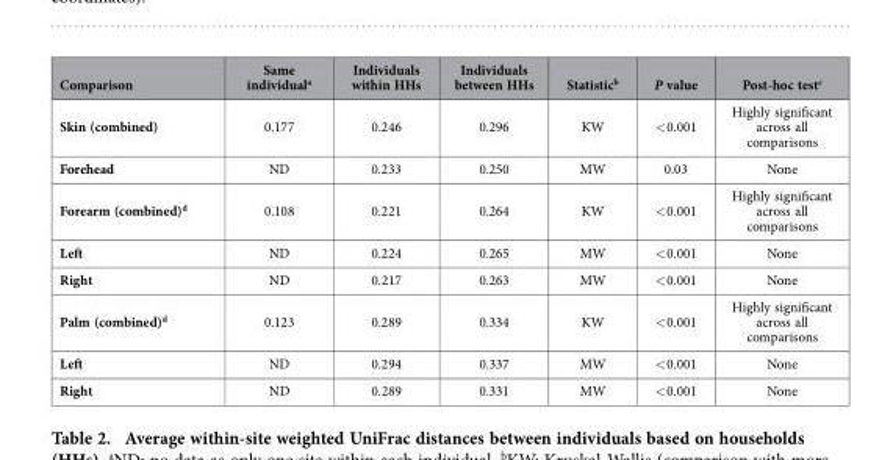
<table><thead><tr><td>Comparison</td><td>Same individual<sup>a</sup></td><td>Individuals within HHs</td><td>Individuals between HHs</td><td>Statistic<sup>b</sup></td><td>P value</td><td>Post-hoc test<sup>c</sup></td></tr></thead><tbody><tr><td>Skin (combined)</td><td>0.177</td><td>0.246</td><td>0.296</td><td>KW</td><td>&lt; 0.001</td><td>Highly significant across all comparisons</td></tr><tr><td>Forehead</td><td>ND</td><td>0.233</td><td>0.250</td><td>MW</td><td>0.03</td><td>None</td></tr><tr><td>Forearm (combined)<sup>d</sup></td><td>0.108</td><td>0.221</td><td>0.264</td><td>KW</td><td>&lt; 0.001</td><td>Highly significant across all comparisons</td></tr><tr><td>Left</td><td>ND</td><td>0.224</td><td>0.265</td><td>MW</td><td>&lt; 0.001</td><td>None</td></tr><tr><td>Right</td><td>ND</td><td>0.217</td><td>0.263</td><td>MW</td><td>&lt; 0.001</td><td>None</td></tr><tr><td>Palm (combined)<sup>d</sup></td><td>0.123</td><td>0.289</td><td>0.334</td><td>KW</td><td>&lt; 0.001</td><td>Highly significant across all comparisons</td></tr><tr><td>Left</td><td>ND</td><td>0.294</td><td>0.337</td><td>MW</td><td>&lt; 0.001</td><td>None</td></tr><tr><td>Right</td><td>ND</td><td>0.289</td><td>0.331</td><td>MW</td><td>&lt; 0.001</td><td>None</td></tr></tbody></table>